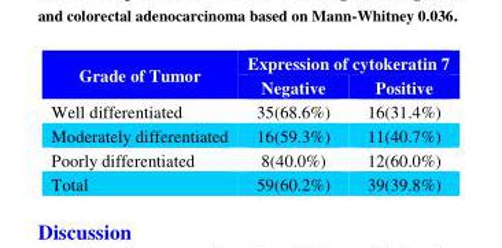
<table><thead><tr><td rowspan="2">Grade of Tumor</td><td colspan="2">Expression of cytokeratin 7</td></tr><tr><td>Negative</td><td>Positive</td></tr></thead><tbody><tr><td>Well differentiated</td><td>35(68.6%)</td><td>16(31.4%)</td></tr><tr><td>Moderately differentiated</td><td>16(59.3%)</td><td>11(40.7%)</td></tr><tr><td>Poorly differentiated</td><td>8(40.0%)</td><td>12(60.0%)</td></tr><tr><td>Total</td><td>59(60.2%)</td><td>39(39.8%)</td></tr></tbody></table>